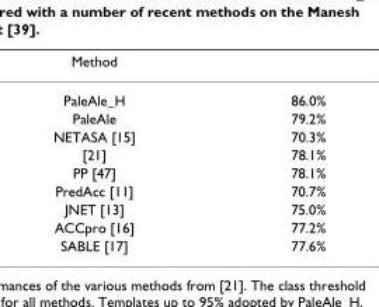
<table><thead><tr><td>Method</td><td></td></tr></thead><tbody><tr><td>PaleAle_H</td><td>86.0%</td></tr><tr><td>PaleAle</td><td>79.2%</td></tr><tr><td>NETASA [15]</td><td>70.3%</td></tr><tr><td>[21]</td><td>78.1%</td></tr><tr><td>PP [47]</td><td>78.1%</td></tr><tr><td>PredAcc [11]</td><td>70.7%</td></tr><tr><td>JNET [13]</td><td>75.0%</td></tr><tr><td>ACCpro [16]</td><td>77.2%</td></tr><tr><td>SABLE [17]</td><td>77.6%</td></tr></tbody></table>